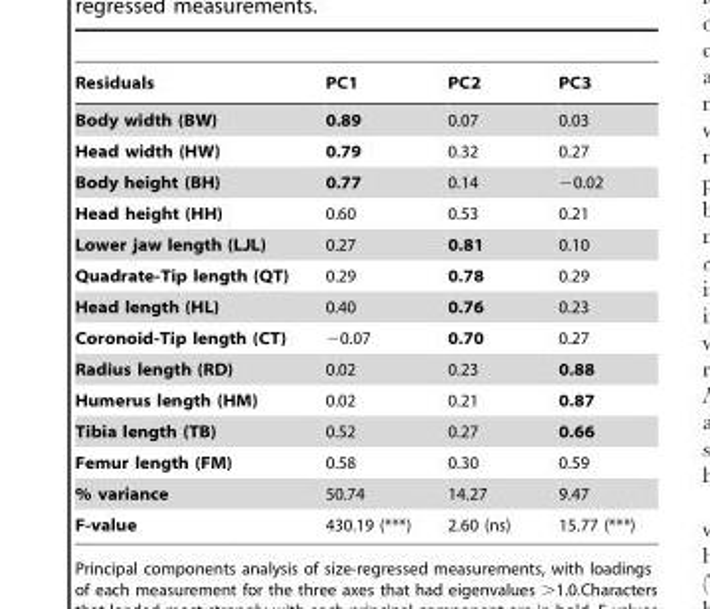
<table><thead><tr><td>Residuals</td><td>PC1</td><td>PC2</td><td>PC3</td></tr></thead><tbody><tr><td>Body width (BW)</td><td>0.89</td><td>0.07</td><td>0.03</td></tr><tr><td>Head width (HW)</td><td>0.79</td><td>0.32</td><td>0.27</td></tr><tr><td>Body height (BH)</td><td>0.77</td><td>0.14</td><td>−0.02</td></tr><tr><td>Head height (HH)</td><td>0.60</td><td>0.53</td><td>0.21</td></tr><tr><td>Lower jaw length (LJL)</td><td>0.27</td><td>0.81</td><td>0.10</td></tr><tr><td>Quadrate-Tip length (QT)</td><td>0.29</td><td>0.78</td><td>0.29</td></tr><tr><td>Head length (HL)</td><td>0.40</td><td>0.76</td><td>0.23</td></tr><tr><td>Coronoid-Tip length (CT)</td><td>−0.07</td><td>0.70</td><td>0.27</td></tr><tr><td>Radius length (RD)</td><td>0.02</td><td>0.23</td><td>0.88</td></tr><tr><td>Humerus length (HM)</td><td>0.02</td><td>0.21</td><td>0.87</td></tr><tr><td>Tibia length (TB)</td><td>0.52</td><td>0.27</td><td>0.66</td></tr><tr><td>Femur length (FM)</td><td>0.58</td><td>0.30</td><td>0.59</td></tr><tr><td>% variance</td><td>50.74</td><td>14.27</td><td>9.47</td></tr><tr><td>F-value</td><td>430.19 (***)</td><td>2.60 (ns)</td><td>15.77 (***)</td></tr></tbody></table>